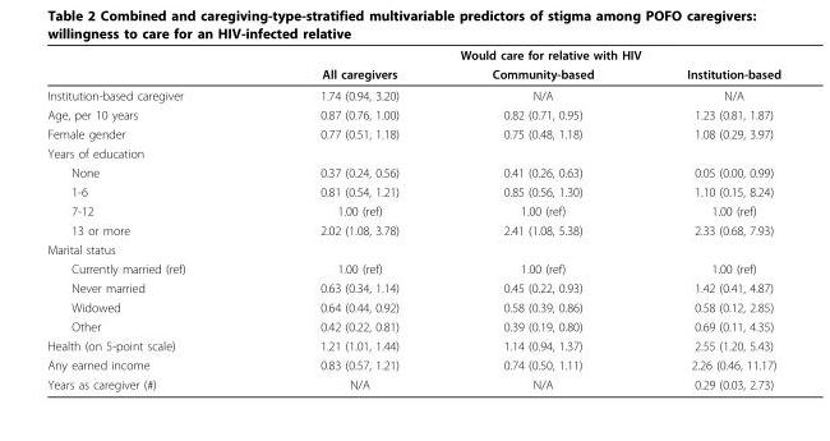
<table><thead><tr><td rowspan="2"></td><td colspan="3">Would care for relative with HIV</td></tr><tr><td>All caregivers</td><td>Community-based</td><td>Institution-based</td></tr></thead><tbody><tr><td>Institution-based caregiver</td><td>1.74 (0.94, 3.20)</td><td>N/A</td><td>N/A</td></tr><tr><td>Age, per 10 years</td><td>0.87 (0.76, 1.00)</td><td>0.82 (0.71, 0.95)</td><td>1.23 (0.81, 1.87)</td></tr><tr><td>Female gender</td><td>0.77 (0.51, 1.18)</td><td>0.75 (0.48, 1.18)</td><td>1.08 (0.29, 3.97)</td></tr><tr><td colspan="4">Years of education</td></tr><tr><td>None</td><td>0.37 (0.24, 0.56)</td><td>0.41 (0.26, 0.63)</td><td>0.05 (0.00, 0.99)</td></tr><tr><td>1-6</td><td>0.81 (0.54, 1.21)</td><td>0.85 (0.56, 1.30)</td><td>1.10 (0.15, 8.24)</td></tr><tr><td>7-12</td><td>1.00 (ref)</td><td>1.00 (ref)</td><td>1.00 (ref)</td></tr><tr><td>13 or more</td><td>2.02 (1.08, 3.78)</td><td>2.41 (1.08, 5.38)</td><td>2.33 (0.68, 7.93)</td></tr><tr><td colspan="4">Marital status</td></tr><tr><td>Currently married (ref)</td><td>1.00 (ref)</td><td>1.00 (ref)</td><td>1.00 (ref)</td></tr><tr><td>Never married</td><td>0.63 (0.34, 1.14)</td><td>0.45 (0.22, 0.93)</td><td>1.42 (0.41, 4.87)</td></tr><tr><td>Widowed</td><td>0.64 (0.44, 0.92)</td><td>0.58 (0.39, 0.86)</td><td>0.58 (0.12, 2.85)</td></tr><tr><td>Other</td><td>0.42 (0.22, 0.81)</td><td>0.39 (0.19, 0.80)</td><td>0.69 (0.11, 4.35)</td></tr><tr><td>Health (on 5-point scale)</td><td>1.21 (1.01, 1.44)</td><td>1.14 (0.94, 1.37)</td><td>2.55 (1.20, 5.43)</td></tr><tr><td>Any earned income</td><td>0.83 (0.57, 1.21)</td><td>0.74 (0.50, 1.11)</td><td>2.26 (0.46, 11.17)</td></tr><tr><td>Years as caregiver (#)</td><td>N/A</td><td>N/A</td><td>0.29 (0.03, 2.73)</td></tr></tbody></table>